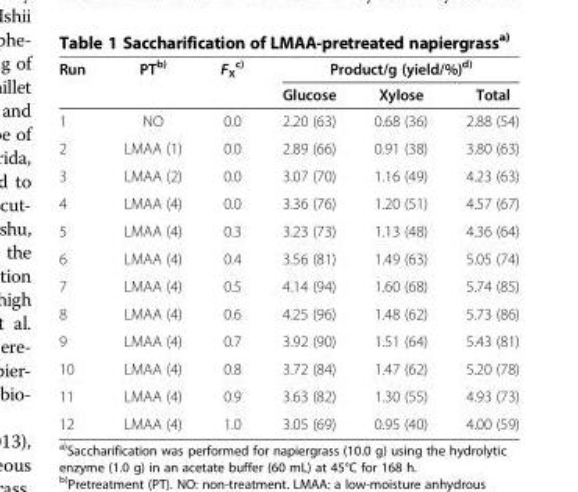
<table><thead><tr><td rowspan="2">Run</td><td rowspan="2">PT<sup>b)</sup></td><td rowspan="2">F<sub>X</sub> <sup>c)</sup></td><td colspan="3">Product/g (yield/%)<sup>d)</sup></td></tr><tr><td>Glucose</td><td>Xylose</td><td>Total</td></tr></thead><tbody><tr><td>1</td><td>NO</td><td>0.0</td><td>2.20 (63)</td><td>0.68 (36)</td><td>2.88 (54)</td></tr><tr><td>2</td><td>LMAA (1)</td><td>0.0</td><td>2.89 (66)</td><td>0.91 (38)</td><td>3.80 (63)</td></tr><tr><td>3</td><td>LMAA (2)</td><td>0.0</td><td>3.07 (70)</td><td>1.16 (49)</td><td>4.23 (63)</td></tr><tr><td>4</td><td>LMAA (4)</td><td>0.0</td><td>3.36 (76)</td><td>1.20 (51)</td><td>4.57 (67)</td></tr><tr><td>5</td><td>LMAA (4)</td><td>0.3</td><td>3.23 (73)</td><td>1.13 (48)</td><td>4.36 (64)</td></tr><tr><td>6</td><td>LMAA (4)</td><td>0.4</td><td>3.56 (81)</td><td>1.49 (63)</td><td>5.05 (74)</td></tr><tr><td>7</td><td>LMAA (4)</td><td>0.5</td><td>4.14 (94)</td><td>1.60 (68)</td><td>5.74 (85)</td></tr><tr><td>8</td><td>LMAA (4)</td><td>0.6</td><td>4.25 (96)</td><td>1.48 (62)</td><td>5.73 (86)</td></tr><tr><td>9</td><td>LMAA (4)</td><td>0.7</td><td>3.92 (90)</td><td>1.51 (64)</td><td>5.43 (81)</td></tr><tr><td>10</td><td>LMAA (4)</td><td>0.8</td><td>3.72 (84)</td><td>1.47 (62)</td><td>5.20 (78)</td></tr><tr><td>11</td><td>LMAA (4)</td><td>0.9</td><td>3.63 (82)</td><td>1.30 (55)</td><td>4.93 (73)</td></tr><tr><td>12</td><td>LMAA (4)</td><td>1.0</td><td>3.05 (69)</td><td>0.95 (40)</td><td>4.00 (59)</td></tr></tbody></table>